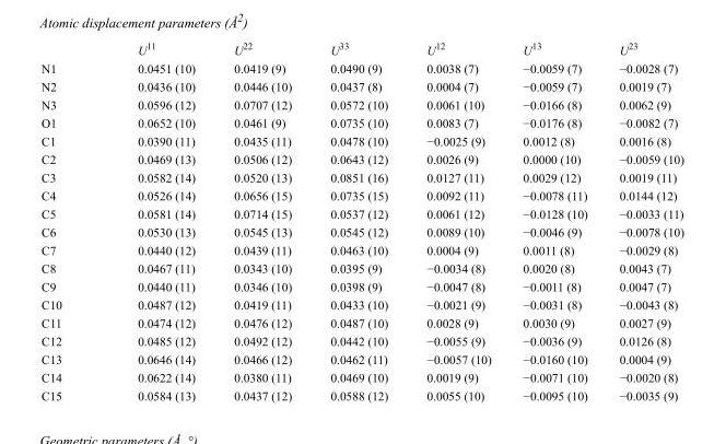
<table><thead><tr><td></td><td>U<sup>11</sup></td><td>U<sup>22</sup></td><td>U<sup>33</sup></td><td>U<sup>12</sup></td><td>U<sup>13</sup></td><td>U<sup>23</sup></td></tr></thead><tbody><tr><td>N1</td><td>0.0451 (10)</td><td>0.0419 (9)</td><td>0.0490 (9)</td><td>0.0038 (7)</td><td>−0.0059 (7)</td><td>−0.0028 (7)</td></tr><tr><td>N2</td><td>0.0436 (10)</td><td>0.0446 (10)</td><td>0.0437 (8)</td><td>0.0004 (7)</td><td>−0.0059 (7)</td><td>0.0019 (7)</td></tr><tr><td>N3</td><td>0.0596 (12)</td><td>0.0707 (12)</td><td>0.0572 (10)</td><td>0.0061 (10)</td><td>−0.0166 (8)</td><td>0.0062 (9)</td></tr><tr><td>O1</td><td>0.0652 (10)</td><td>0.0461 (9)</td><td>0.0735 (10)</td><td>0.0083 (7)</td><td>−0.0176 (8)</td><td>−0.0082 (7)</td></tr><tr><td>C1</td><td>0.0390 (11)</td><td>0.0435 (11)</td><td>0.0478 (10)</td><td>−0.0025 (9)</td><td>0.0012 (8)</td><td>0.0016 (8)</td></tr><tr><td>C2</td><td>0.0469 (13)</td><td>0.0506 (12)</td><td>0.0643 (12)</td><td>0.0026 (9)</td><td>0.0000 (10)</td><td>−0.0059 (10)</td></tr><tr><td>C3</td><td>0.0582 (14)</td><td>0.0520 (13)</td><td>0.0851 (16)</td><td>0.0127 (11)</td><td>0.0029 (12)</td><td>0.0019 (11)</td></tr><tr><td>C4</td><td>0.0526 (14)</td><td>0.0656 (15)</td><td>0.0735 (15)</td><td>0.0092 (11)</td><td>−0.0078 (11)</td><td>0.0144 (12)</td></tr><tr><td>C5</td><td>0.0581 (14)</td><td>0.0714 (15)</td><td>0.0537 (12)</td><td>0.0061 (12)</td><td>−0.0128 (10)</td><td>−0.0033 (11)</td></tr><tr><td>C6</td><td>0.0530 (13)</td><td>0.0545 (13)</td><td>0.0545 (12)</td><td>0.0089 (10)</td><td>−0.0046 (9)</td><td>−0.0078 (10)</td></tr><tr><td>C7</td><td>0.0440 (12)</td><td>0.0439 (11)</td><td>0.0463 (10)</td><td>0.0004 (9)</td><td>0.0011 (8)</td><td>−0.0029 (8)</td></tr><tr><td>C8</td><td>0.0467 (11)</td><td>0.0343 (10)</td><td>0.0395 (9)</td><td>−0.0034 (8)</td><td>0.0020 (8)</td><td>0.0043 (7)</td></tr><tr><td>C9</td><td>0.0440 (11)</td><td>0.0346 (10)</td><td>0.0398 (9)</td><td>−0.0047 (8)</td><td>−0.0011 (8)</td><td>0.0047 (7)</td></tr><tr><td>C10</td><td>0.0487 (12)</td><td>0.0419 (11)</td><td>0.0433 (10)</td><td>−0.0021 (9)</td><td>−0.0031 (8)</td><td>−0.0043 (8)</td></tr><tr><td>C11</td><td>0.0474 (12)</td><td>0.0476 (12)</td><td>0.0487 (10)</td><td>0.0028 (9)</td><td>0.0030 (9)</td><td>0.0027 (9)</td></tr><tr><td>C12</td><td>0.0485 (12)</td><td>0.0492 (12)</td><td>0.0442 (10)</td><td>−0.0055 (9)</td><td>−0.0036 (9)</td><td>0.0126 (8)</td></tr><tr><td>C13</td><td>0.0646 (14)</td><td>0.0466 (12)</td><td>0.0462 (11)</td><td>−0.0057 (10)</td><td>−0.0160 (10)</td><td>0.0004 (9)</td></tr><tr><td>C14</td><td>0.0622 (14)</td><td>0.0380 (11)</td><td>0.0469 (10)</td><td>0.0019 (9)</td><td>−0.0071 (10)</td><td>−0.0020 (8)</td></tr><tr><td>C15</td><td>0.0584 (13)</td><td>0.0437 (12)</td><td>0.0588 (12)</td><td>0.0055 (10)</td><td>−0.0095 (10)</td><td>−0.0035 (9)</td></tr></tbody></table>